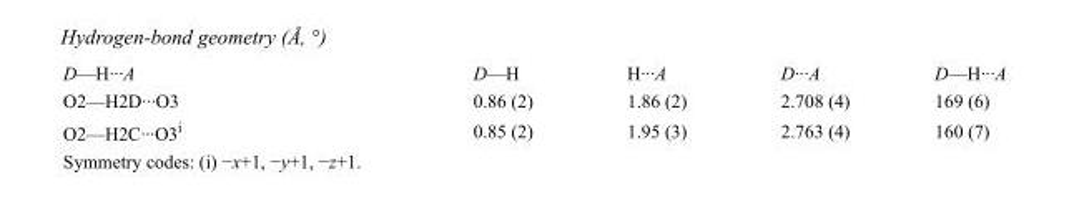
<table><tbody><tr><td>D—H···A</td><td>D—H</td><td>H···A</td><td>D···A</td><td>D—H···A</td></tr><tr><td>O2—H2D···O3</td><td>0.86 (2)</td><td>1.86 (2)</td><td>2.708 (4)</td><td>169 (6)</td></tr><tr><td>O2—H2C···O3<sup>i</sup></td><td>0.85 (2)</td><td>1.95 (3)</td><td>2.763 (4)</td><td>160 (7)</td></tr></tbody></table>